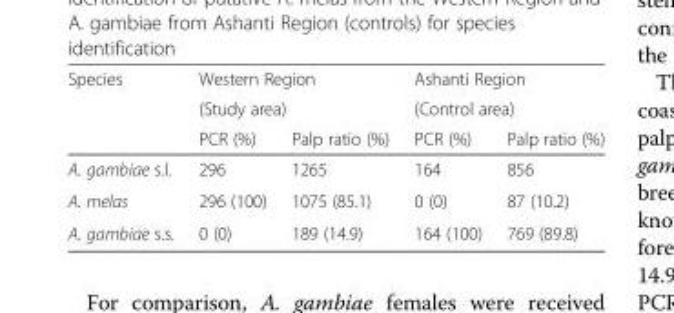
<table><thead><tr><td rowspan="3">Species</td><td rowspan="2" colspan="2">Western Region (Study area)</td><td rowspan="2" colspan="2">Ashanti Region (Control area)</td></tr><tr></tr><tr><td>PCR (%)</td><td>Palp ratio (%)</td><td>PCR (%)</td><td>Palp ratio (%)</td></tr></thead><tbody><tr><td>A. gambiae s.l.</td><td>296</td><td>1265</td><td>164</td><td>856</td></tr><tr><td>A. melas</td><td>296 (100)</td><td>1075 (85.1)</td><td>0 (0)</td><td>87 (10.2)</td></tr><tr><td>A. gambiae s.s.</td><td>0 (0)</td><td>189 (14.9)</td><td>164 (100)</td><td>769 (89.8)</td></tr></tbody></table>